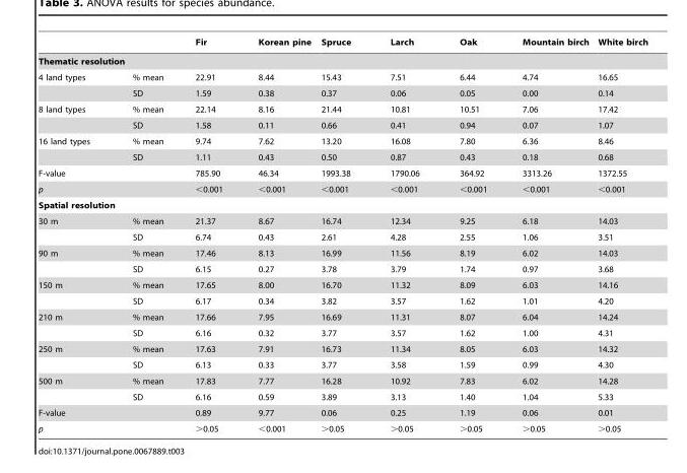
<table><thead><tr><td></td><td></td><td>Fir</td><td>Korean pine</td><td>Spruce</td><td>Larch</td><td>Oak</td><td>Mountain birch</td><td>White birch</td></tr></thead><tbody><tr><td colspan="9">Thematic resolution</td></tr><tr><td rowspan="2">4 land types</td><td>% mean</td><td>22.91</td><td>8.44</td><td>15.43</td><td>7.51</td><td>6.44</td><td>4.74</td><td>16.65</td></tr><tr><td>SD</td><td>1.59</td><td>0.38</td><td>0.37</td><td>0.06</td><td>0.05</td><td>0.00</td><td>0.14</td></tr><tr><td rowspan="2">8 land types</td><td>% mean</td><td>22.14</td><td>8.16</td><td>21.44</td><td>10.81</td><td>10.51</td><td>7.06</td><td>17.42</td></tr><tr><td>SD</td><td>1.58</td><td>0.11</td><td>0.66</td><td>0.41</td><td>0.94</td><td>0.07</td><td>1.07</td></tr><tr><td rowspan="2">16 land types</td><td>% mean</td><td>9.74</td><td>7.62</td><td>13.20</td><td>16.08</td><td>7.80</td><td>6.36</td><td>8.46</td></tr><tr><td>SD</td><td>1.11</td><td>0.43</td><td>0.50</td><td>0.87</td><td>0.43</td><td>0.18</td><td>0.68</td></tr><tr><td>F-value</td><td></td><td>785.90</td><td>46.34</td><td>1993.38</td><td>1790.06</td><td>364.92</td><td>3313.26</td><td>1372.55</td></tr><tr><td>p</td><td></td><td>&lt;0.001</td><td>&lt;0.001</td><td>&lt;0.001</td><td>&lt;0.001</td><td>&lt;0.001</td><td>&lt;0.001</td><td>&lt;0.001</td></tr><tr><td colspan="9">Spatial resolution</td></tr><tr><td rowspan="2">30 m</td><td>% mean</td><td>21.37</td><td>8.67</td><td>16.74</td><td>12.34</td><td>9.25</td><td>6.18</td><td>14.03</td></tr><tr><td>SD</td><td>6.74</td><td>0.43</td><td>2.61</td><td>4.28</td><td>2.55</td><td>1.06</td><td>3.51</td></tr><tr><td rowspan="2">90 m</td><td>% mean</td><td>17.46</td><td>8.13</td><td>16.99</td><td>11.56</td><td>8.19</td><td>6.02</td><td>14.03</td></tr><tr><td>SD</td><td>6.15</td><td>0.27</td><td>3.78</td><td>3.79</td><td>1.74</td><td>0.97</td><td>3.68</td></tr><tr><td rowspan="2">150 m</td><td>% mean</td><td>17.65</td><td>8.00</td><td>16.70</td><td>11.32</td><td>8.09</td><td>6.03</td><td>14.16</td></tr><tr><td>SD</td><td>6.17</td><td>0.34</td><td>3.82</td><td>3.57</td><td>1.62</td><td>1.01</td><td>4.20</td></tr><tr><td rowspan="2">210 m</td><td>% mean</td><td>17.66</td><td>7.95</td><td>16.69</td><td>11.31</td><td>8.07</td><td>6.04</td><td>14.24</td></tr><tr><td>SD</td><td>6.16</td><td>0.32</td><td>3.77</td><td>3.57</td><td>1.62</td><td>1.00</td><td>4.31</td></tr><tr><td rowspan="2">250 m</td><td>% mean</td><td>17.63</td><td>7.91</td><td>16.73</td><td>11.34</td><td>8.05</td><td>6.03</td><td>14.32</td></tr><tr><td>SD</td><td>6.13</td><td>0.33</td><td>3.77</td><td>3.58</td><td>1.59</td><td>0.99</td><td>4.30</td></tr><tr><td rowspan="2">500 m</td><td>% mean</td><td>17.83</td><td>7.77</td><td>16.28</td><td>10.92</td><td>7.83</td><td>6.02</td><td>14.28</td></tr><tr><td>SD</td><td>6.16</td><td>0.59</td><td>3.89</td><td>3.13</td><td>1.40</td><td>1.04</td><td>5.33</td></tr><tr><td>F-value</td><td></td><td>0.89</td><td>9.77</td><td>0.06</td><td>0.25</td><td>1.19</td><td>0.06</td><td>0.01</td></tr><tr><td>p</td><td></td><td>&gt;0.05</td><td>&lt;0.001</td><td>&gt;0.05</td><td>&gt;0.05</td><td>&gt;0.05</td><td>&gt;0.05</td><td>&gt;0.05</td></tr></tbody></table>